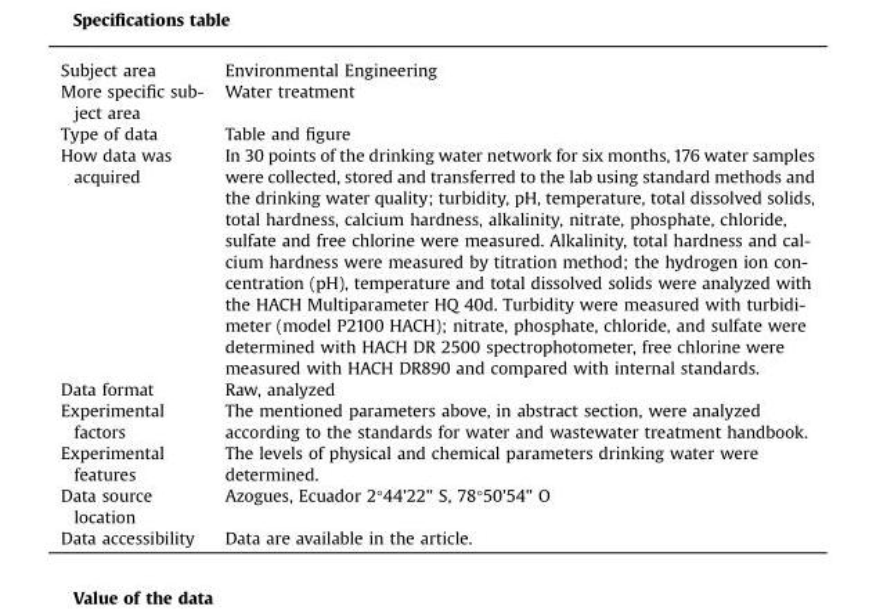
<table><tbody><tr><td>Subject area</td><td>Environmental Engineering</td></tr><tr><td>More specific sub- ject area</td><td>Water treatment</td></tr><tr><td>Type of data</td><td>Table and figure</td></tr><tr><td>How data was acquired</td><td>In 30 points of the drinking water network for six months, 176 water samples were collected, stored and transferred to the lab using standard methods and the drinking water quality; turbidity, pH, temperature, total dissolved solids, total hardness, calcium hardness, alkalinity, nitrate, phosphate, chloride, sulfate and free chlorine were measured. Alkalinity, total hardness and cal- cium hardness were measured by titration method; the hydrogen ion con- centration (pH), temperature and total dissolved solids were analyzed with the HACH Multiparameter HQ 40d. Turbidity were measured with turbidi- meter (model P2100 HACH); nitrate, phosphate, chloride, and sulfate were determined with HACH DR 2500 spectrophotometer, free chlorine were measured with HACH DR890 and compared with internal standards.</td></tr><tr><td>Data format</td><td>Raw, analyzed</td></tr><tr><td>Experimental factors</td><td>The mentioned parameters above, in abstract section, were analyzed according to the standards for water and wastewater treatment handbook.</td></tr><tr><td>Experimental features</td><td>The levels of physical and chemical parameters drinking water were determined.</td></tr><tr><td>Data source location</td><td>Azogues, Ecuador 2°44&#x27;22&quot; S, 78°50&#x27;54&quot; O</td></tr><tr><td>Data accessibility</td><td>Data are available in the article.</td></tr></tbody></table>